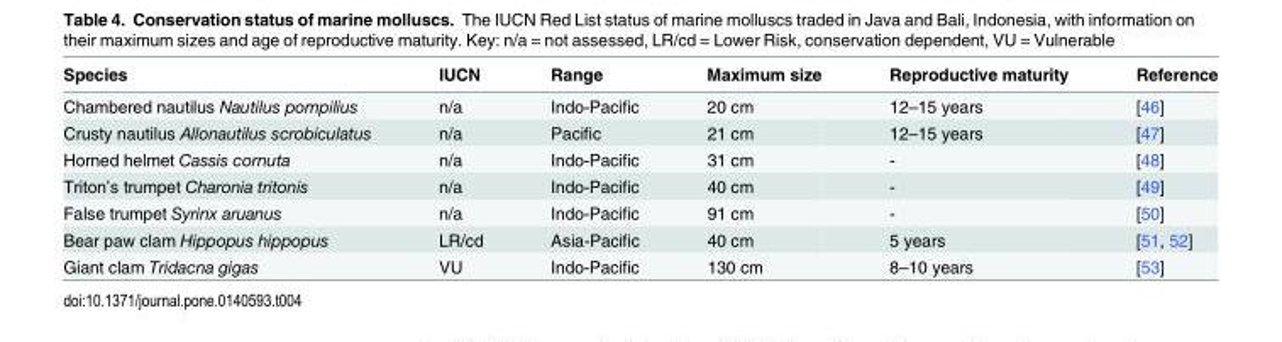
<table><thead><tr><td>Species</td><td>IUCN</td><td>Range</td><td>Maximum size</td><td>Reproductive maturity</td><td>Reference</td></tr></thead><tbody><tr><td>Chambered nautilus Nautilus pompilius</td><td>n/a</td><td>Indo-Pacific</td><td>20 cm</td><td>12–15 years</td><td>[46]</td></tr><tr><td>Crusty nautilus Allonautilus scrobiculatus</td><td>n/a</td><td>Pacific</td><td>21 cm</td><td>12–15 years</td><td>[47]</td></tr><tr><td>Horned helmet Cassis cornuta</td><td>n/a</td><td>Indo-Pacific</td><td>31 cm</td><td>-</td><td>[48]</td></tr><tr><td>Triton’s trumpet Charonia tritonis</td><td>n/a</td><td>Indo-Pacific</td><td>40 cm</td><td>-</td><td>[49]</td></tr><tr><td>False trumpet Syrinx aruanus</td><td>n/a</td><td>Indo-Pacific</td><td>91 cm</td><td>-</td><td>[50]</td></tr><tr><td>Bear paw clam Hippopus hippopus</td><td>LR/cd</td><td>Asia-Pacific</td><td>40 cm</td><td>5 years</td><td>[51, 52]</td></tr><tr><td>Giant clam Tridacna gigas</td><td>VU</td><td>Indo-Pacific</td><td>130 cm</td><td>8–10 years</td><td>[53]</td></tr></tbody></table>